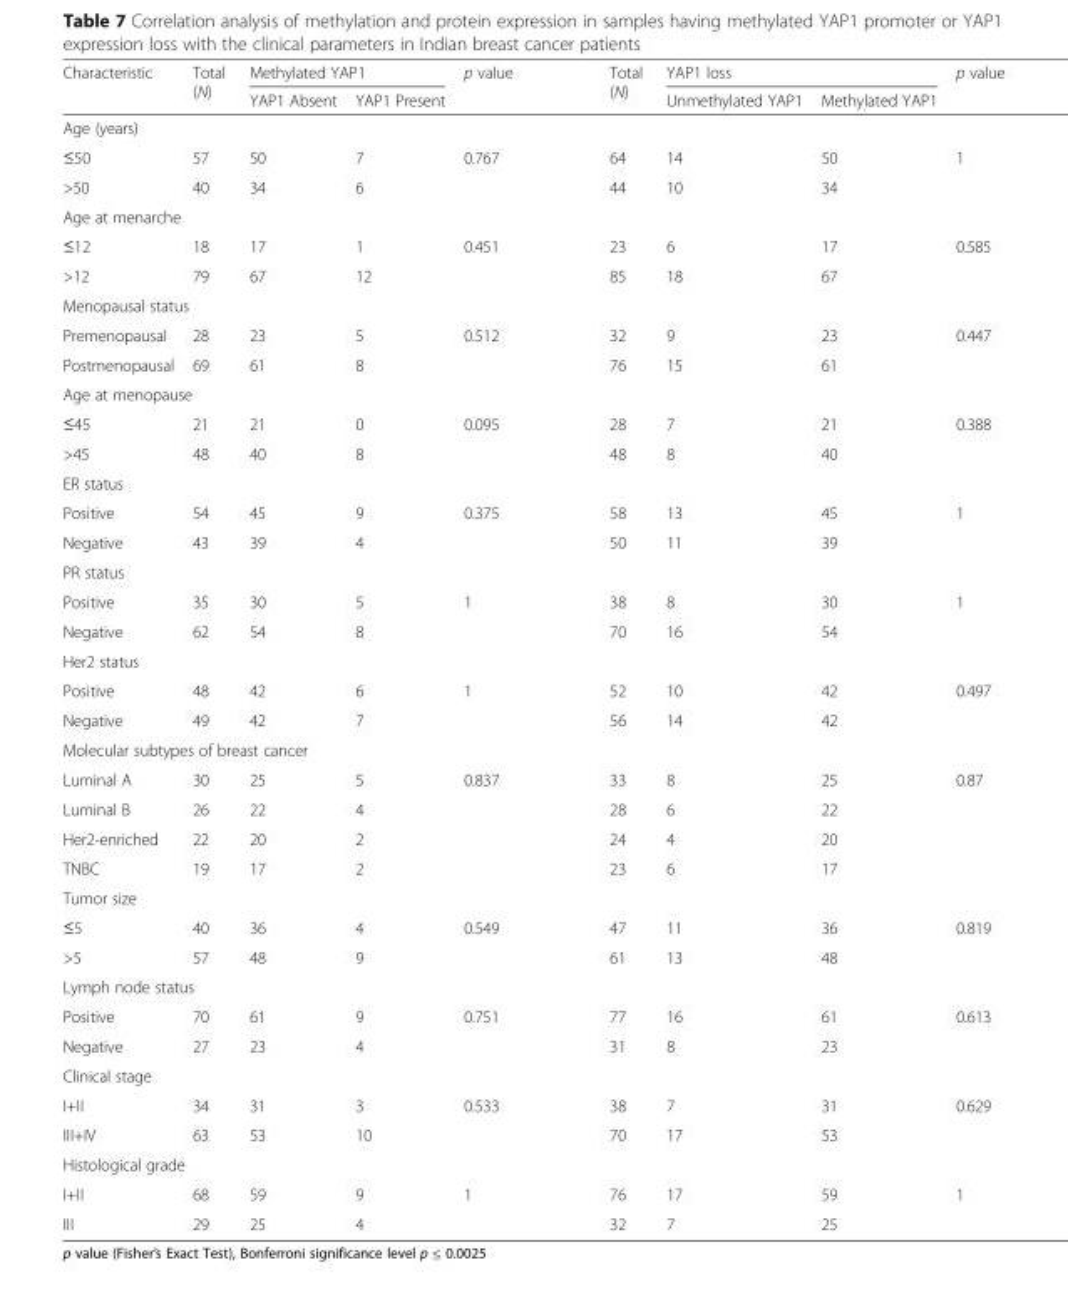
<table><thead><tr><td rowspan="2">Characteristic</td><td rowspan="2">Total (N)</td><td colspan="2">Methylated YAP1</td><td rowspan="2">p value</td><td rowspan="2">Total (N)</td><td colspan="2">YAP1 loss</td><td rowspan="2">p value</td></tr><tr><td>YAP1 Absent</td><td>YAP1 Present</td><td>Unmethylated YAP1</td><td>Methylated YAP1</td></tr></thead><tbody><tr><td colspan="9">Age (years)</td></tr><tr><td>≤50</td><td>57</td><td>50</td><td>7</td><td>0.767</td><td>64</td><td>14</td><td>50</td><td>1</td></tr><tr><td>&gt;50</td><td>40</td><td>34</td><td>6</td><td></td><td>44</td><td>10</td><td>34</td><td></td></tr><tr><td colspan="9">Age at menarche</td></tr><tr><td>≤12</td><td>18</td><td>17</td><td>1</td><td>0.451</td><td>23</td><td>6</td><td>17</td><td>0.585</td></tr><tr><td>&gt;12</td><td>79</td><td>67</td><td>12</td><td></td><td>85</td><td>18</td><td>67</td><td></td></tr><tr><td colspan="9">Menopausal status</td></tr><tr><td>Premenopausal</td><td>28</td><td>23</td><td>5</td><td>0.512</td><td>32</td><td>9</td><td>23</td><td>0.447</td></tr><tr><td>Postmenopausal</td><td>69</td><td>61</td><td>8</td><td></td><td>76</td><td>15</td><td>61</td><td></td></tr><tr><td colspan="9">Age at menopause</td></tr><tr><td>≤45</td><td>21</td><td>21</td><td>0</td><td>0.095</td><td>28</td><td>7</td><td>21</td><td>0.388</td></tr><tr><td>&gt;45</td><td>48</td><td>40</td><td>8</td><td></td><td>48</td><td>8</td><td>40</td><td></td></tr><tr><td colspan="9">ER status</td></tr><tr><td>Positive</td><td>54</td><td>45</td><td>9</td><td>0.375</td><td>58</td><td>13</td><td>45</td><td>1</td></tr><tr><td>Negative</td><td>43</td><td>39</td><td>4</td><td></td><td>50</td><td>11</td><td>39</td><td></td></tr><tr><td colspan="9">PR status</td></tr><tr><td>Positive</td><td>35</td><td>30</td><td>5</td><td>1</td><td>38</td><td>8</td><td>30</td><td>1</td></tr><tr><td>Negative</td><td>62</td><td>54</td><td>8</td><td></td><td>70</td><td>16</td><td>54</td><td></td></tr><tr><td colspan="9">Her2 status</td></tr><tr><td>Positive</td><td>48</td><td>42</td><td>6</td><td>1</td><td>52</td><td>10</td><td>42</td><td>0.497</td></tr><tr><td>Negative</td><td>49</td><td>42</td><td>7</td><td></td><td>56</td><td>14</td><td>42</td><td></td></tr><tr><td colspan="9">Molecular subtypes of breast cancer</td></tr><tr><td>Luminal A</td><td>30</td><td>25</td><td>5</td><td>0.837</td><td>33</td><td>8</td><td>25</td><td>0.87</td></tr><tr><td>Luminal B</td><td>26</td><td>22</td><td>4</td><td></td><td>28</td><td>6</td><td>22</td><td></td></tr><tr><td>Her2-enriched</td><td>22</td><td>20</td><td>2</td><td></td><td>24</td><td>4</td><td>20</td><td></td></tr><tr><td>TNBC</td><td>19</td><td>17</td><td>2</td><td></td><td>23</td><td>6</td><td>17</td><td></td></tr><tr><td colspan="9">Tumor size</td></tr><tr><td>≤5</td><td>40</td><td>36</td><td>4</td><td>0.549</td><td>47</td><td>11</td><td>36</td><td>0.819</td></tr><tr><td>&gt;5</td><td>57</td><td>48</td><td>9</td><td></td><td>61</td><td>13</td><td>48</td><td></td></tr><tr><td colspan="9">Lymph node status</td></tr><tr><td>Positive</td><td>70</td><td>61</td><td>9</td><td>0.751</td><td>77</td><td>16</td><td>61</td><td>0.613</td></tr><tr><td>Negative</td><td>27</td><td>23</td><td>4</td><td></td><td>31</td><td>8</td><td>23</td><td></td></tr><tr><td colspan="9">Clinical stage</td></tr><tr><td>I+II</td><td>34</td><td>31</td><td>3</td><td>0.533</td><td>38</td><td>7</td><td>31</td><td>0.629</td></tr><tr><td>III+IV</td><td>63</td><td>53</td><td>10</td><td></td><td>70</td><td>17</td><td>53</td><td></td></tr><tr><td colspan="9">Histological grade</td></tr><tr><td>I+II</td><td>68</td><td>59</td><td>9</td><td>1</td><td>76</td><td>17</td><td>59</td><td>1</td></tr><tr><td>III</td><td>29</td><td>25</td><td>4</td><td></td><td>32</td><td>7</td><td>25</td><td></td></tr></tbody></table>